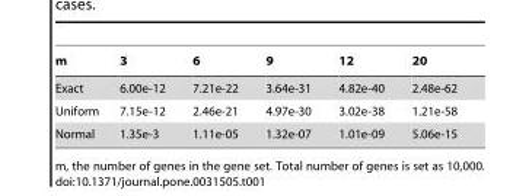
<table><thead><tr><td>m</td><td>3</td><td>6</td><td>9</td><td>12</td><td>20</td></tr></thead><tbody><tr><td>Exact</td><td>6.00e-12</td><td>7.21e-22</td><td>3.64e-31</td><td>4.82e-40</td><td>2.48e-62</td></tr><tr><td>Uniform</td><td>7.15e-12</td><td>2.46e-21</td><td>4.97e-30</td><td>3.02e-38</td><td>1.21e-58</td></tr><tr><td>Normal</td><td>1.35e-3</td><td>1.11e-05</td><td>1.32e-07</td><td>1.01e-09</td><td>5.06e-15</td></tr></tbody></table>